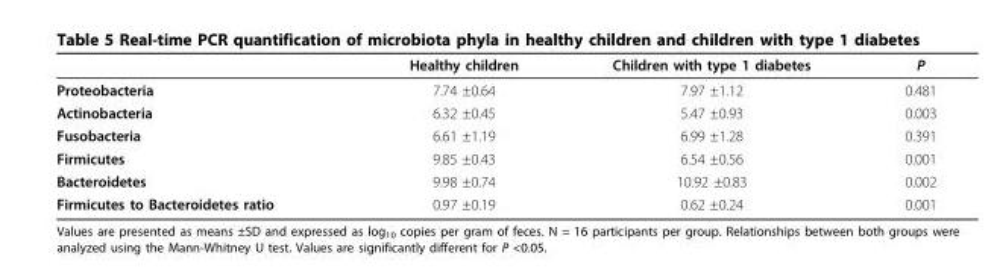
<table><thead><tr><td></td><td>Healthy children</td><td>Children with type 1 diabetes</td><td>P</td></tr></thead><tbody><tr><td>Proteobacteria</td><td>7.74 ±0.64</td><td>7.97 ±1.12</td><td>0.481</td></tr><tr><td>Actinobacteria</td><td>6.32 ±0.45</td><td>5.47 ±0.93</td><td>0.003</td></tr><tr><td>Fusobacteria</td><td>6.61 ±1.19</td><td>6.99 ±1.28</td><td>0.391</td></tr><tr><td>Firmicutes</td><td>9.85 ±0.43</td><td>6.54 ±0.56</td><td>0.001</td></tr><tr><td>Bacteroidetes</td><td>9.98 ±0.74</td><td>10.92 ±0.83</td><td>0.002</td></tr><tr><td>Firmicutes to Bacteroidetes ratio</td><td>0.97 ±0.19</td><td>0.62 ±0.24</td><td>0.001</td></tr></tbody></table>